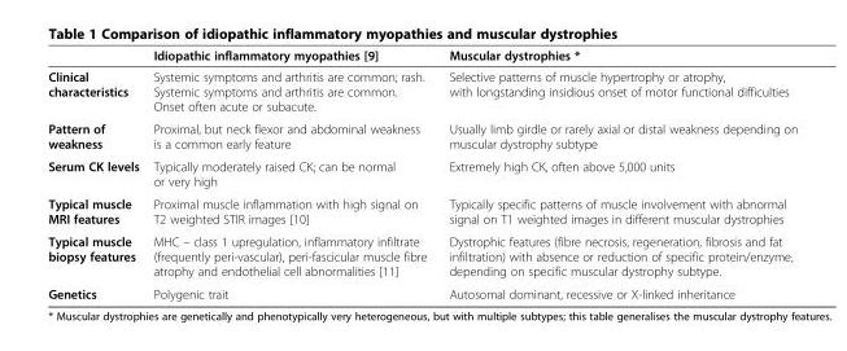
<table><thead><tr><td></td><td>Idiopathic inflammatory myopathies [9]</td><td>Muscular dystrophies *</td></tr></thead><tbody><tr><td>Clinical characteristics</td><td>Systemic symptoms and arthritis are common; rash. Systemic symptoms and arthritis are common. Onset often acute or subacute.</td><td>Selective patterns of muscle hypertrophy or atrophy, with longstanding insidious onset of motor functional difficulties</td></tr><tr><td>Pattern of weakness</td><td>Proximal, but neck flexor and abdominal weakness is a common early feature</td><td>Usually limb girdle or rarely axial or distal weakness depending on muscular dystrophy subtype</td></tr><tr><td>Serum CK levels</td><td>Typically moderately raised CK; can be normal or very high</td><td>Extremely high CK, often above 5,000 units</td></tr><tr><td>Typical muscle MRI features</td><td>Proximal muscle inflammation with high signal on T2 weighted STIR images [10]</td><td>Typically specific patterns of muscle involvement with abnormal signal on T1 weighted images in different muscular dystrophies</td></tr><tr><td>Typical muscle biopsy features</td><td>MHC – class 1 upregulation, inflammatory infiltrate (frequently peri-vascular), peri-fascicular muscle fibre atrophy and endothelial cell abnormalities [11]</td><td>Dystrophic features (fibre necrosis, regeneration, fibrosis and fat infiltration) with absence or reduction of specific protein/enzyme, depending on specific muscular dystrophy subtype.</td></tr><tr><td>Genetics</td><td>Polygenic trait</td><td>Autosomal dominant, recessive or X-linked inheritance</td></tr></tbody></table>